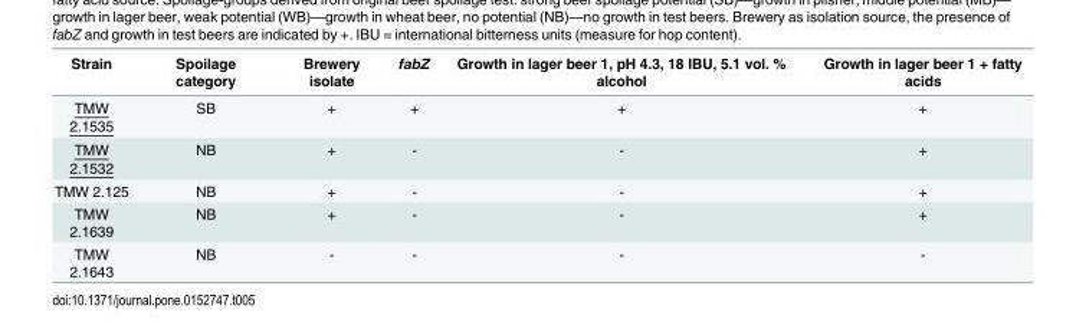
<table><thead><tr><td>Strain</td><td>Spoilage category</td><td>Brewery isolate</td><td>fabZ</td><td>Growth in lager beer 1, pH 4.3, 18 IBU, 5.1 vol. % alcohol</td><td>Growth in lager beer 1 + fatty acids</td></tr></thead><tbody><tr><td>TMW 2.1535</td><td>SB</td><td>+</td><td>+</td><td>+</td><td>+</td></tr><tr><td>TMW 2.1532</td><td>NB</td><td>+</td><td>-</td><td>-</td><td>+</td></tr><tr><td>TMW 2.125</td><td>NB</td><td>+</td><td>-</td><td>-</td><td>+</td></tr><tr><td>TMW 2.1639</td><td>NB</td><td>+</td><td>-</td><td>-</td><td>+</td></tr><tr><td>TMW 2.1643</td><td>NB</td><td>-</td><td>-</td><td>-</td><td>-</td></tr></tbody></table>